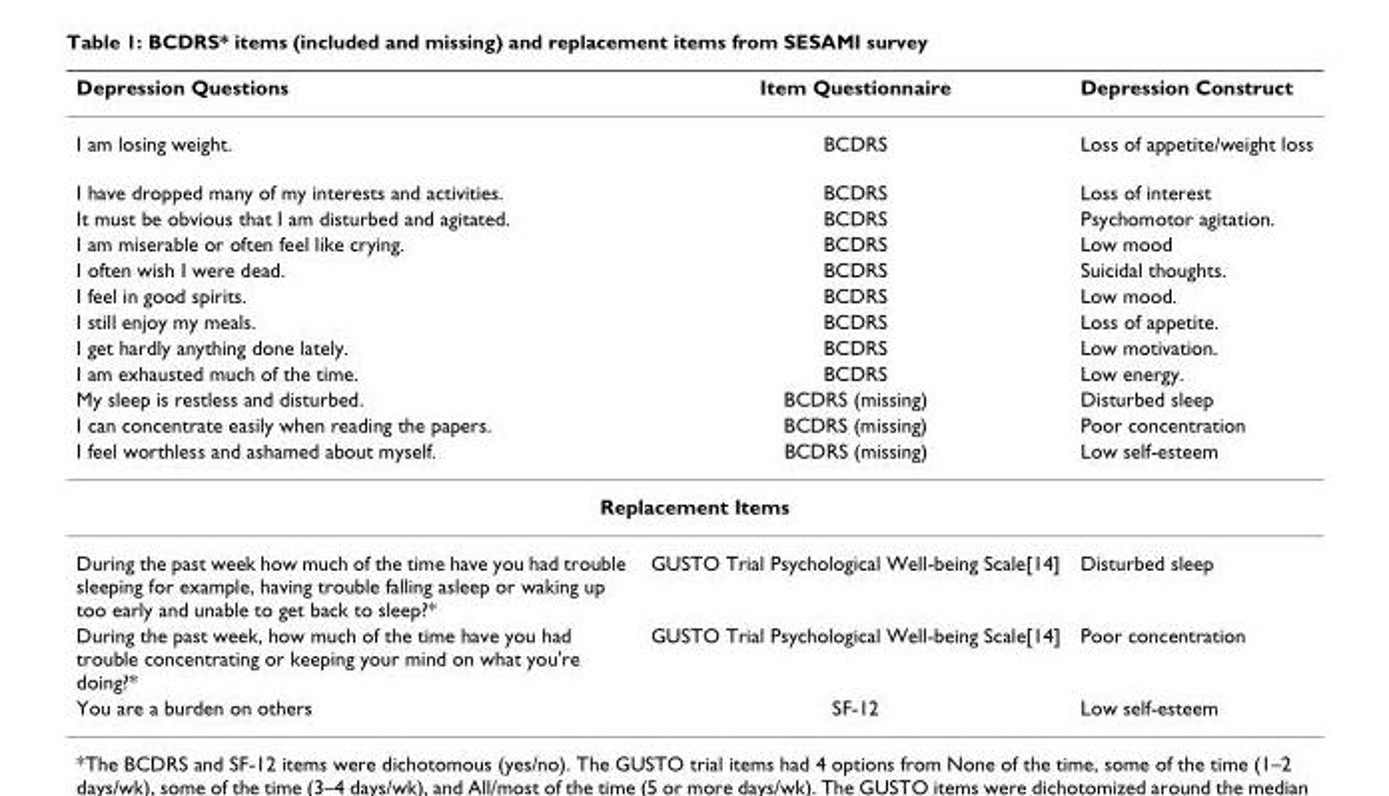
<table><thead><tr><td>Depression Questions</td><td>Item Questionnaire</td><td>Depression Construct</td></tr></thead><tbody><tr><td>I am losing weight.</td><td>BCDRS</td><td>Loss of appetite/weight loss</td></tr><tr><td>I have dropped many of my interests and activities.</td><td>BCDRS</td><td>Loss of interest</td></tr><tr><td>It must be obvious that I am disturbed and agitated.</td><td>BCDRS</td><td>Psychomotor agitation.</td></tr><tr><td>I am miserable or often feel like crying.</td><td>BCDRS</td><td>Low mood</td></tr><tr><td>I often wish I were dead.</td><td>BCDRS</td><td>Suicidal thoughts.</td></tr><tr><td>I feel in good spirits.</td><td>BCDRS</td><td>Low mood.</td></tr><tr><td>I still enjoy my meals.</td><td>BCDRS</td><td>Loss of appetite.</td></tr><tr><td>I get hardly anything done lately.</td><td>BCDRS</td><td>Low motivation.</td></tr><tr><td>I am exhausted much of the time.</td><td>BCDRS</td><td>Low energy.</td></tr><tr><td>My sleep is restless and disturbed.</td><td>BCDRS (missing)</td><td>Disturbed sleep</td></tr><tr><td>I can concentrate easily when reading the papers.</td><td>BCDRS (missing)</td><td>Poor concentration</td></tr><tr><td>I feel worthless and ashamed about myself.</td><td>BCDRS (missing)</td><td>Low self-esteem</td></tr><tr><td colspan="3">Replacement Items</td></tr><tr><td>During the past week how much of the time have you had trouble sleeping for example, having trouble falling asleep or waking up too early and unable to get back to sleep?*</td><td>GUSTO Trial Psychological Well-being Scale[14]</td><td>Disturbed sleep</td></tr><tr><td>During the past week, how much of the time have you had trouble concentrating or keeping your mind on what you&#x27;re doing?*</td><td>GUSTO Trial Psychological Well-being Scale[14]</td><td>Poor concentration</td></tr><tr><td>You are a burden on others</td><td>SF-12</td><td>Low self-esteem</td></tr></tbody></table>